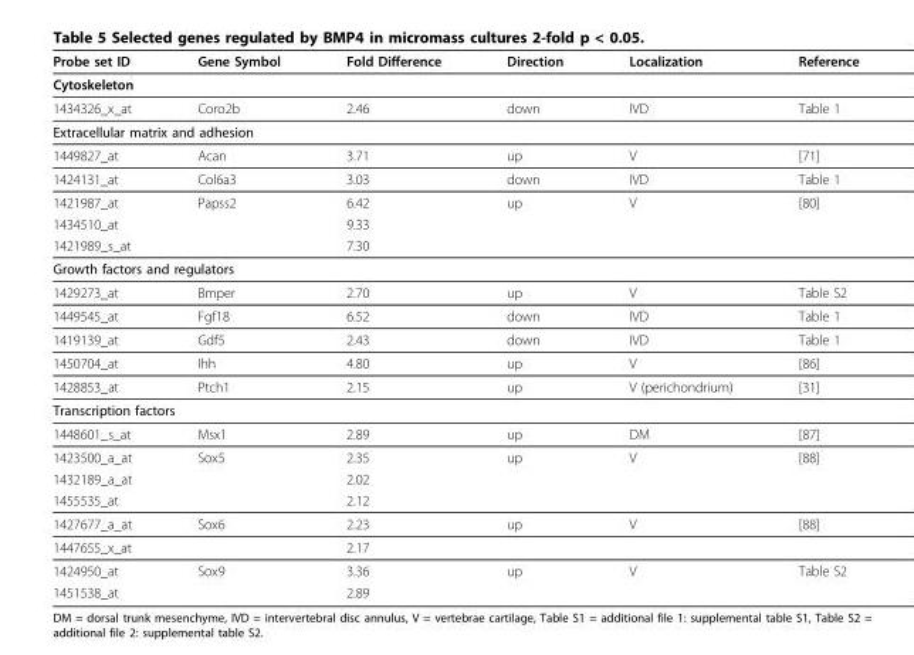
<table><thead><tr><td>Probe set ID</td><td>Gene Symbol</td><td>Fold Difference</td><td>Direction</td><td>Localization</td><td>Reference</td></tr></thead><tbody><tr><td colspan="6">Cytoskeleton</td></tr><tr><td>1434326_x_at</td><td>Coro2b</td><td>2.46</td><td>down</td><td>IVD</td><td>Table 1</td></tr><tr><td colspan="6">Extracellular matrix and adhesion</td></tr><tr><td>1449827_at</td><td>Acan</td><td>3.71</td><td>up</td><td>V</td><td>[71]</td></tr><tr><td>1424131_at</td><td>Col6a3</td><td>3.03</td><td>down</td><td>IVD</td><td>Table 1</td></tr><tr><td>1421987_at</td><td>Papss2</td><td>6.42</td><td>up</td><td>V</td><td>[80]</td></tr><tr><td>1434510_at</td><td></td><td>9.33</td><td></td><td></td><td></td></tr><tr><td>1421989_s_at</td><td></td><td>7.30</td><td></td><td></td><td></td></tr><tr><td colspan="6">Growth factors and regulators</td></tr><tr><td>1429273_at</td><td>Bmper</td><td>2.70</td><td>up</td><td>V</td><td>Table S2</td></tr><tr><td>1449545_at</td><td>Fgf18</td><td>6.52</td><td>down</td><td>IVD</td><td>Table 1</td></tr><tr><td>1419139_at</td><td>Gdf5</td><td>2.43</td><td>down</td><td>IVD</td><td>Table 1</td></tr><tr><td>1450704_at</td><td>Ihh</td><td>4.80</td><td>up</td><td>V</td><td>[86]</td></tr><tr><td>1428853_at</td><td>Ptch1</td><td>2.15</td><td>up</td><td>V (perichondrium)</td><td>[31]</td></tr><tr><td colspan="6">Transcription factors</td></tr><tr><td>1448601_s_at</td><td>Msx1</td><td>2.89</td><td>up</td><td>DM</td><td>[87]</td></tr><tr><td>1423500_a_at</td><td>Sox5</td><td>2.35</td><td>up</td><td>V</td><td>[88]</td></tr><tr><td>1432189_a_at</td><td></td><td>2.02</td><td></td><td></td><td></td></tr><tr><td>1455535_at</td><td></td><td>2.12</td><td></td><td></td><td></td></tr><tr><td>1427677_a_at</td><td>Sox6</td><td>2.23</td><td>up</td><td>V</td><td>[88]</td></tr><tr><td>1447655_x_at</td><td></td><td>2.17</td><td></td><td></td><td></td></tr><tr><td>1424950_at</td><td>Sox9</td><td>3.36</td><td>up</td><td>V</td><td>Table S2</td></tr><tr><td>1451538_at</td><td></td><td>2.89</td><td></td><td></td><td></td></tr></tbody></table>